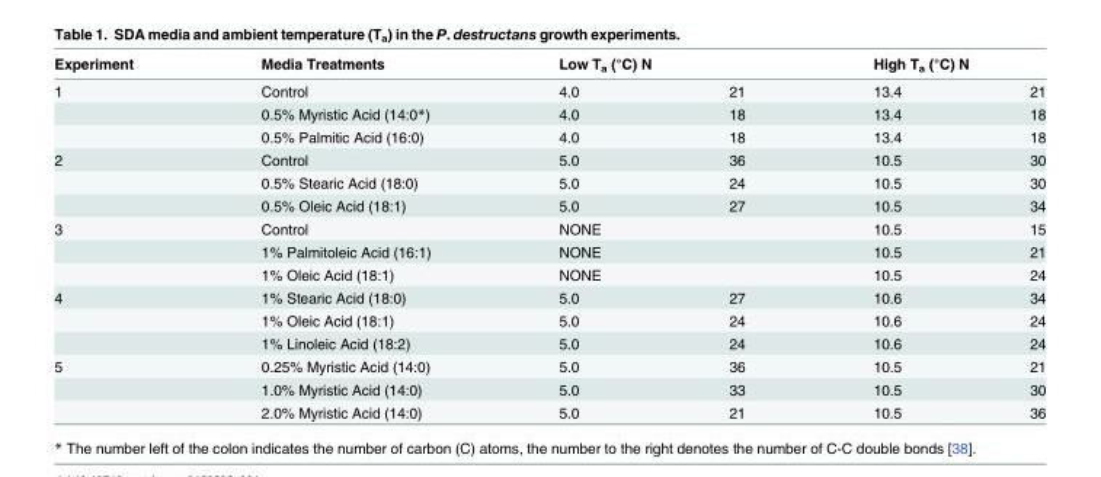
<table><thead><tr><td rowspan="2">Experiment 1</td><td rowspan="2">Media Treatments Control</td><td colspan="2">Low T<sub>a</sub> (°C) N</td><td colspan="2">High T<sub>a</sub> (°C) N</td></tr><tr><td>4.0</td><td>21</td><td>13.4</td><td>21</td></tr></thead><tbody><tr><td></td><td>0.5% Myristic Acid (14:0*)</td><td>4.0</td><td>18</td><td>13.4</td><td>18</td></tr><tr><td></td><td>0.5% Palmitic Acid (16:0)</td><td>4.0</td><td>18</td><td>13.4</td><td>18</td></tr><tr><td rowspan="3">2</td><td>Control</td><td>5.0</td><td>36</td><td>10.5</td><td>30</td></tr><tr><td>0.5% Stearic Acid (18:0)</td><td>5.0</td><td>24</td><td>10.5</td><td>30</td></tr><tr><td>0.5% Oleic Acid (18:1)</td><td>5.0</td><td>27</td><td>10.5</td><td>34</td></tr><tr><td rowspan="3">3</td><td>Control</td><td>NONE</td><td></td><td>10.5</td><td>15</td></tr><tr><td>1% Palmitoleic Acid (16:1)</td><td>NONE</td><td></td><td>10.5</td><td>21</td></tr><tr><td>1% Oleic Acid (18:1)</td><td>NONE</td><td></td><td>10.5</td><td>24</td></tr><tr><td rowspan="3">4</td><td>1% Stearic Acid (18:0)</td><td>5.0</td><td>27</td><td>10.6</td><td>34</td></tr><tr><td>1% Oleic Acid (18:1)</td><td>5.0</td><td>24</td><td>10.6</td><td>24</td></tr><tr><td>1% Linoleic Acid (18:2)</td><td>5.0</td><td>24</td><td>10.6</td><td>24</td></tr><tr><td rowspan="3">5</td><td>0.25% Myristic Acid (14:0)</td><td>5.0</td><td>36</td><td>10.5</td><td>21</td></tr><tr><td>1.0% Myristic Acid (14:0)</td><td>5.0</td><td>33</td><td>10.5</td><td>30</td></tr><tr><td>2.0% Myristic Acid (14:0)</td><td>5.0</td><td>21</td><td>10.5</td><td>36</td></tr></tbody></table>